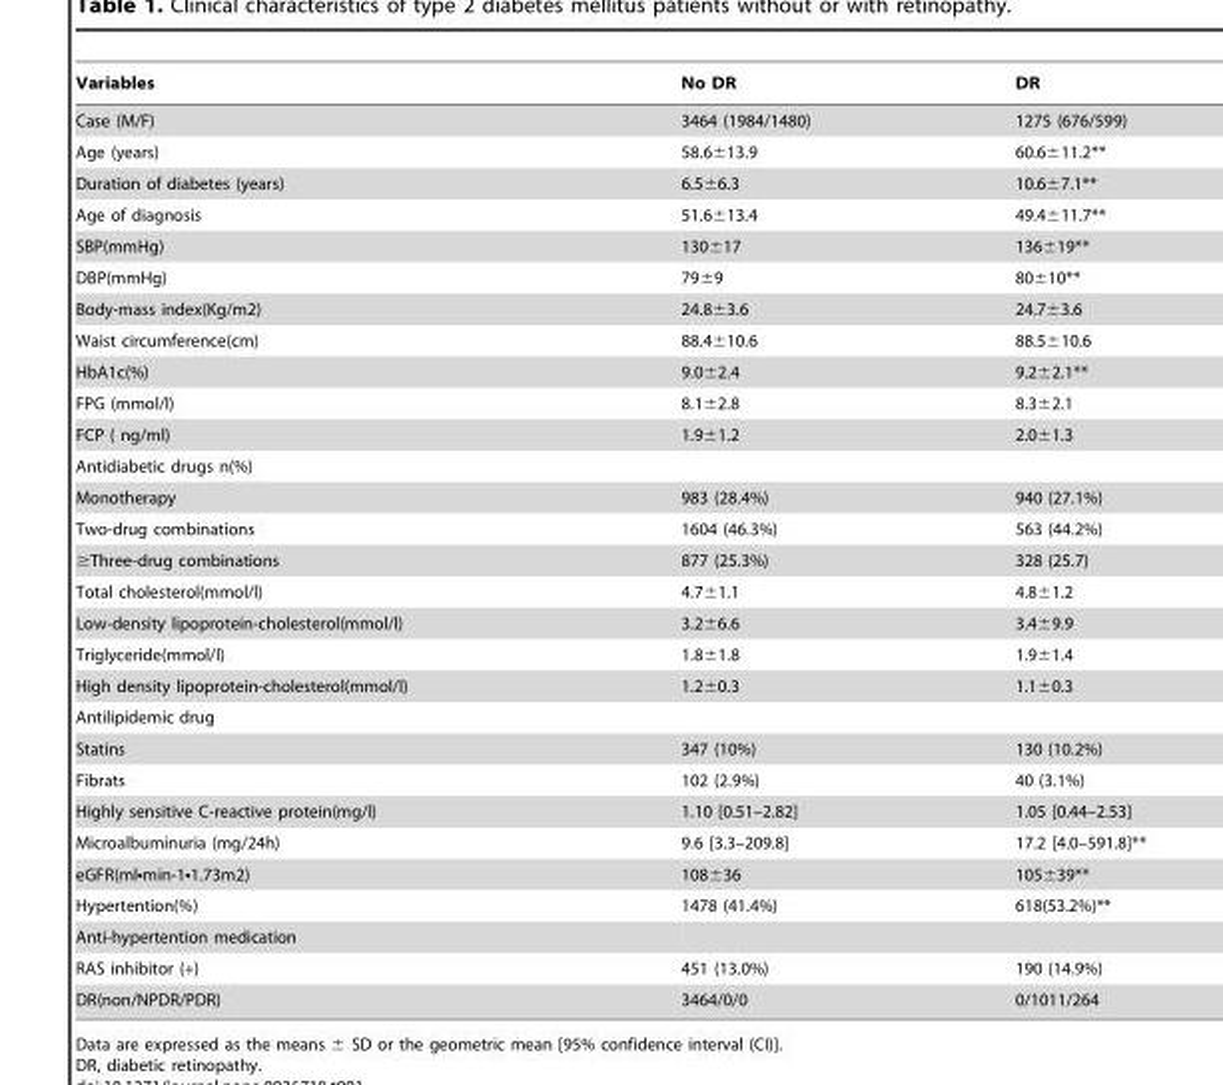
<table><thead><tr><td>Variables</td><td>No DR</td><td>DR</td></tr></thead><tbody><tr><td>Case (M/F)</td><td>3464 (1984/1480)</td><td>1275 (676/599)</td></tr><tr><td>Age (years)</td><td>58.6±13.9</td><td>60.6±11.2**</td></tr><tr><td>Duration of diabetes (years)</td><td>6.5±6.3</td><td>10.6±7.1**</td></tr><tr><td>Age of diagnosis</td><td>51.6±13.4</td><td>49.4±11.7**</td></tr><tr><td>SBP(mmHg)</td><td>130±17</td><td>136±19**</td></tr><tr><td>DBP(mmHg)</td><td>79±9</td><td>80±10**</td></tr><tr><td>Body-mass index(Kg/m2)</td><td>24.8±3.6</td><td>24.7±3.6</td></tr><tr><td>Waist circumference(cm)</td><td>88.4±10.6</td><td>88.5±10.6</td></tr><tr><td>HbA1c(%)</td><td>9.0±2.4</td><td>9.2±2.1**</td></tr><tr><td>FPG (mmol/l)</td><td>8.1±2.8</td><td>8.3±2.1</td></tr><tr><td>FCP ( ng/ml)</td><td>1.9±1.2</td><td>2.0±1.3</td></tr><tr><td colspan="3">Antidiabetic drugs n(%)</td></tr><tr><td>Monotherapy</td><td>983 (28.4%)</td><td>940 (27.1%)</td></tr><tr><td>Two-drug combinations</td><td>1604 (46.3%)</td><td>563 (44.2%)</td></tr><tr><td>≥Three-drug combinations</td><td>877 (25.3%)</td><td>328 (25.7)</td></tr><tr><td>Total cholesterol(mmol/l)</td><td>4.7±1.1</td><td>4.8±1.2</td></tr><tr><td>Low-density lipoprotein-cholesterol(mmol/l)</td><td>3.2±6.6</td><td>3.4±9.9</td></tr><tr><td>Triglyceride(mmol/l)</td><td>1.8±1.8</td><td>1.9±1.4</td></tr><tr><td>High density lipoprotein-cholesterol(mmol/l)</td><td>1.2±0.3</td><td>1.1±0.3</td></tr><tr><td colspan="3">Antilipidemic drug</td></tr><tr><td>Statins</td><td>347 (10%)</td><td>130 (10.2%)</td></tr><tr><td>Fibrats</td><td>102 (2.9%)</td><td>40 (3.1%)</td></tr><tr><td>Highly sensitive C-reactive protein(mg/l)</td><td>1.10 [0.51–2.82]</td><td>1.05 [0.44–2.53]</td></tr><tr><td>Microalbuminuria (mg/24h)</td><td>9.6 [3.3–209.8]</td><td>17.2 [4.0–591.8]**</td></tr><tr><td>eGFR(ml•min-1•1.73m2)</td><td>108±36</td><td>105±39**</td></tr><tr><td>Hypertention(%)</td><td>1478 (41.4%)</td><td>618(53.2%)**</td></tr><tr><td colspan="3">Anti-hypertention medication</td></tr><tr><td>RAS inhibitor (+)</td><td>451 (13.0%)</td><td>190 (14.9%)</td></tr><tr><td>DR(non/NPDR/PDR)</td><td>3464/0/0</td><td>0/1011/264</td></tr></tbody></table>